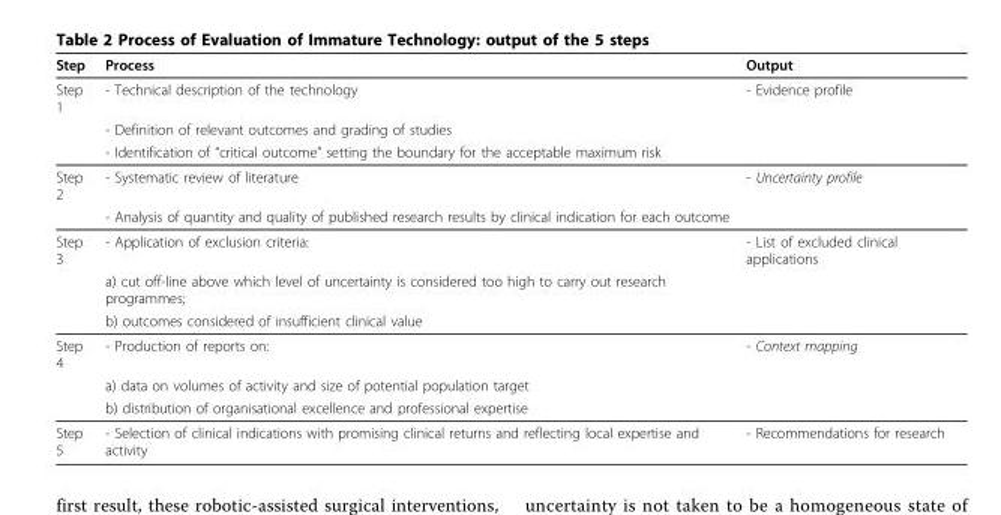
<table><thead><tr><td>Step</td><td>Process</td><td>Output</td></tr></thead><tbody><tr><td rowspan="3">Step 1</td><td>- Technical description of the technology</td><td>- Evidence profile</td></tr><tr><td>- Definition of relevant outcomes and grading of studies</td><td></td></tr><tr><td>- Identification of “critical outcome” setting the boundary for the acceptable maximum risk</td><td></td></tr><tr><td rowspan="2">Step 2</td><td>- Systematic review of literature</td><td>- Uncertainty profile</td></tr><tr><td>- Analysis of quantity and quality of published research results by clinical indication for each outcome</td><td></td></tr><tr><td rowspan="3">Step 3</td><td>- Application of exclusion criteria:</td><td>- List of excluded clinical applications</td></tr><tr><td>a) cut off-line above which level of uncertainty is considered too high to carry out research programmes;</td><td></td></tr><tr><td>b) outcomes considered of insufficient clinical value</td><td></td></tr><tr><td rowspan="3">Step 4</td><td>- Production of reports on:</td><td>- Context mapping</td></tr><tr><td>a) data on volumes of activity and size of potential population target</td><td></td></tr><tr><td>b) distribution of organisational excellence and professional expertise</td><td></td></tr><tr><td>Step 5</td><td>- Selection of clinical indications with promising clinical returns and reflecting local expertise and activity</td><td>- Recommendations for research</td></tr></tbody></table>